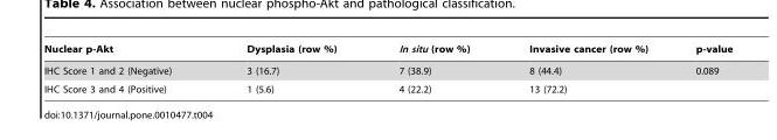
<table><thead><tr><td>Nuclear p-Akt</td><td>Dysplasia (row %)</td><td>In situ (row %)</td><td>Invasive cancer (row %)</td><td>p-value</td></tr></thead><tbody><tr><td>IHC Score 1 and 2 (Negative)</td><td>3 (16.7)</td><td>7 (38.9)</td><td>8 (44.4)</td><td>0.089</td></tr><tr><td>IHC Score 3 and 4 (Positive)</td><td>1 (5.6)</td><td>4 (22.2)</td><td>13 (72.2)</td><td></td></tr></tbody></table>